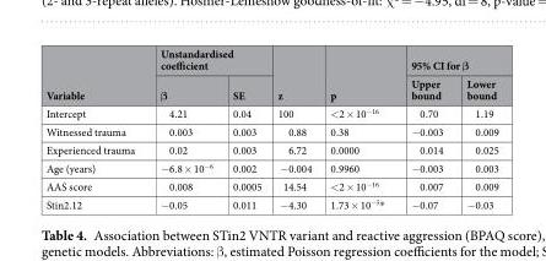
<table><thead><tr><td rowspan="2">Variable</td><td colspan="2">Unstandardised coefficient</td><td rowspan="2">z</td><td rowspan="2">p</td><td colspan="2">95% CI for β</td></tr><tr><td>β</td><td>SE</td><td>Upper bound</td><td>Lower bound</td></tr></thead><tbody><tr><td>Intercept</td><td>4.21</td><td>0.04</td><td>100</td><td>&lt;2 × 10<sup>−16</sup></td><td>0.70</td><td>1.19</td></tr><tr><td>Witnessed trauma</td><td>0.003</td><td>0.003</td><td>0.88</td><td>0.38</td><td>−0.003</td><td>0.009</td></tr><tr><td>Experienced trauma</td><td>0.02</td><td>0.003</td><td>6.72</td><td>0.0000</td><td>0.014</td><td>0.025</td></tr><tr><td>Age (years)</td><td>−6.8 × 10<sup>−6</sup></td><td>0.002</td><td>−0.004</td><td>0.9960</td><td>−0.003</td><td>0.003</td></tr><tr><td>AAS score</td><td>0.008</td><td>0.0005</td><td>14.54</td><td>&lt;2 × 10<sup>−16</sup></td><td>0.007</td><td>0.009</td></tr><tr><td>Stin2.12</td><td>−0.05</td><td>0.011</td><td>−4.30</td><td>1.73 × 10<sup>−5</sup>*</td><td>−0.07</td><td>−0.03</td></tr></tbody></table>